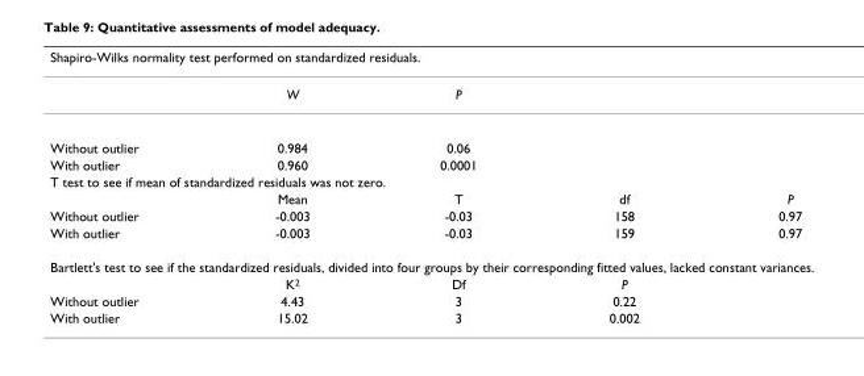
<table><thead><tr><td colspan="5">Shapiro-Wilks normality test performed on standardized residuals.</td></tr><tr><td></td><td>W</td><td>P</td><td></td><td></td></tr></thead><tbody><tr><td>Without outlier</td><td>0.984</td><td>0.06</td><td></td><td></td></tr><tr><td>With outlier</td><td>0.960</td><td>0.0001</td><td></td><td></td></tr><tr><td colspan="5">T test to see if mean of standardized residuals was not zero.</td></tr><tr><td></td><td>Mean</td><td>T</td><td>df</td><td>P</td></tr><tr><td>Without outlier</td><td>-0.003</td><td>-0.03</td><td>158</td><td>0.97</td></tr><tr><td>With outlier</td><td>-0.003</td><td>-0.03</td><td>159</td><td>0.97</td></tr><tr><td colspan="5">Bartlett&#x27;s test to see if the standardized residuals, divided into four groups by their corresponding fitted values, lacked constant variances.</td></tr><tr><td></td><td>K2</td><td>Df</td><td>P</td><td></td></tr><tr><td>Without outlier</td><td>4.43</td><td>3</td><td>0.22</td><td></td></tr><tr><td>With outlier</td><td>15.02</td><td>3</td><td>0.002</td><td></td></tr></tbody></table>